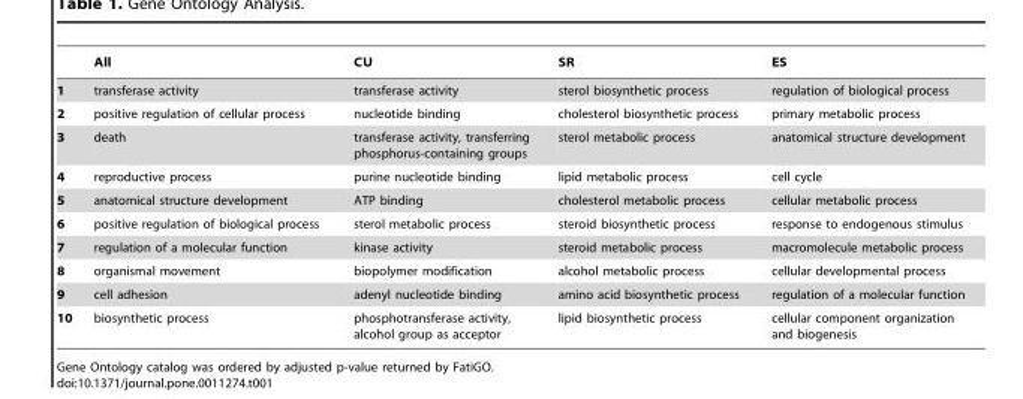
<table><thead><tr><td></td><td>All</td><td>CU</td><td>SR</td><td>ES</td></tr></thead><tbody><tr><td>1</td><td>transferase activity</td><td>transferase activity</td><td>sterol biosynthetic process</td><td>regulation of biological process</td></tr><tr><td>2</td><td>positive regulation of cellular process</td><td>nucleotide binding</td><td>cholesterol biosynthetic process</td><td>primary metabolic process</td></tr><tr><td>3</td><td>death</td><td>transferase activity, transferring phosphorus-containing groups</td><td>sterol metabolic process</td><td>anatomical structure development</td></tr><tr><td>4</td><td>reproductive process</td><td>purine nucleotide binding</td><td>lipid metabolic process</td><td>cell cycle</td></tr><tr><td>5</td><td>anatomical structure development</td><td>ATP binding</td><td>cholesterol metabolic process</td><td>cellular metabolic process</td></tr><tr><td>6</td><td>positive regulation of biological process</td><td>sterol metabolic process</td><td>steroid biosynthetic process</td><td>response to endogenous stimulus</td></tr><tr><td>7</td><td>regulation of a molecular function</td><td>kinase activity</td><td>steroid metabolic process</td><td>macromolecule metabolic process</td></tr><tr><td>8</td><td>organismal movement</td><td>biopolymer modification</td><td>alcohol metabolic process</td><td>cellular developmental process</td></tr><tr><td>9</td><td>cell adhesion</td><td>adenyl nucleotide binding</td><td>amino acid biosynthetic process</td><td>regulation of a molecular function</td></tr><tr><td>10</td><td>biosynthetic process</td><td>phosphotransferase activity, alcohol group as acceptor</td><td>lipid biosynthetic process</td><td>cellular component organization and biogenesis</td></tr></tbody></table>